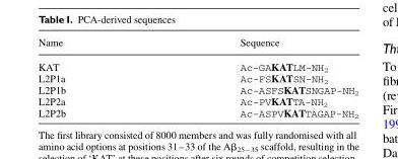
<table><thead><tr><td>Name</td><td>Sequence</td></tr></thead><tbody><tr><td>KAT</td><td>Ac-GAKATLM-NH<sub>2</sub></td></tr><tr><td>L2P1a</td><td>Ac-FSKATSN-NH<sub>2</sub></td></tr><tr><td>L2P1b</td><td>Ac-ASFSKATSNGAP-NH<sub>2</sub></td></tr><tr><td>L2P2a</td><td>Ac-PVKATTA-NH<sub>2</sub></td></tr><tr><td>L2P2b</td><td>Ac-ASPVKATTAGAP-NH<sub>2</sub></td></tr></tbody></table>